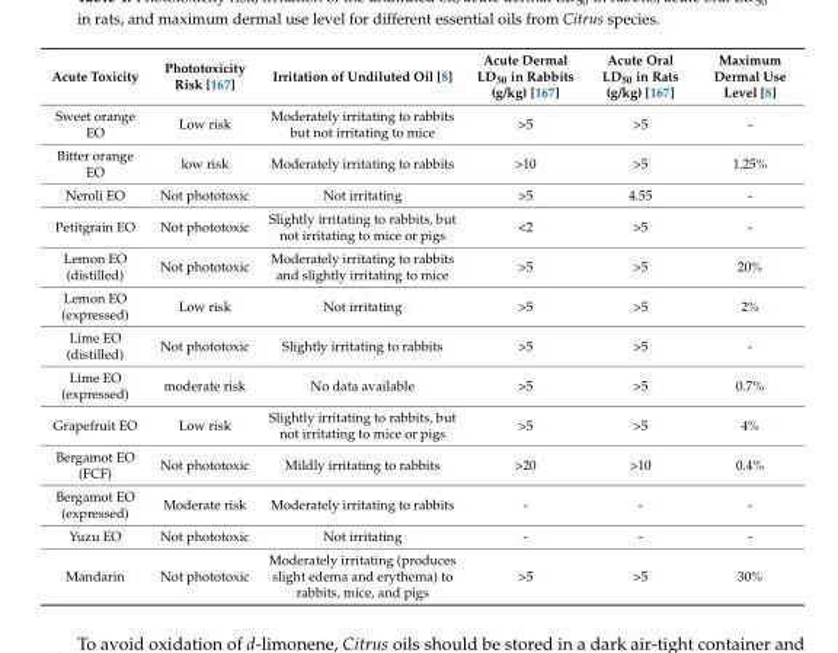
<table><thead><tr><td>Acute Toxicity</td><td>Phototoxicity Risk [167]</td><td>Irritation of Undiluted Oil [8]</td><td>Acute Dermal LD<sub>50</sub> in Rabbits (g/kg) [167]</td><td>Acute Oral LD<sub>50</sub> in Rats (g/kg) [167]</td><td>Maximum Dermal Use Level [8]</td></tr></thead><tbody><tr><td>Sweet orange EO</td><td>Low risk</td><td>Moderately irritating to rabbits but not irritating to mice</td><td>&gt;5</td><td>&gt;5</td><td>-</td></tr><tr><td>Bitter orange EO</td><td>low risk</td><td>Moderately irritating to rabbits</td><td>&gt;10</td><td>&gt;5</td><td>1.25%</td></tr><tr><td>Neroli EO</td><td>Not phototoxic</td><td>Not irritating</td><td>&gt;5</td><td>4.55</td><td>-</td></tr><tr><td>Petitgrain EO</td><td>Not phototoxic</td><td>Slightly irritating to rabbits, but not irritating to mice or pigs</td><td>&lt;2</td><td>&gt;5</td><td>-</td></tr><tr><td>Lemon EO (distilled)</td><td>Not phototoxic</td><td>Moderately irritating to rabbits and slightly irritating to mice</td><td>&gt;5</td><td>&gt;5</td><td>20%</td></tr><tr><td>Lemon EO (expressed)</td><td>Low risk</td><td>Not irritating</td><td>&gt;5</td><td>&gt;5</td><td>2%</td></tr><tr><td>Lime EO (distilled)</td><td>Not phototoxic</td><td>Slightly irritating to rabbits</td><td>&gt;5</td><td>&gt;5</td><td>-</td></tr><tr><td>Lime EO (expressed)</td><td>moderate risk</td><td>No data available</td><td>&gt;5</td><td>&gt;5</td><td>0.7%</td></tr><tr><td>Grapefruit EO</td><td>Low risk</td><td>Slightly irritating to rabbits, but not irritating to mice or pigs</td><td>&gt;5</td><td>&gt;5</td><td>4%</td></tr><tr><td>Bergamot EO (FCF)</td><td>Not phototoxic</td><td>Mildly irritating to rabbits</td><td>&gt;20</td><td>&gt;10</td><td>0.4%</td></tr><tr><td>Bergamot EO (expressed)</td><td>Moderate risk</td><td>Moderately irritating to rabbits</td><td>-</td><td>-</td><td>-</td></tr><tr><td>Yuzu EO</td><td>Not phototoxic</td><td>Not irritating</td><td>-</td><td>-</td><td>-</td></tr><tr><td>Mandarin</td><td>Not phototoxic</td><td>Moderately irritating (produces slight edema and erythema) to rabbits, mice, and pigs</td><td>&gt;5</td><td>&gt;5</td><td>30%</td></tr></tbody></table>